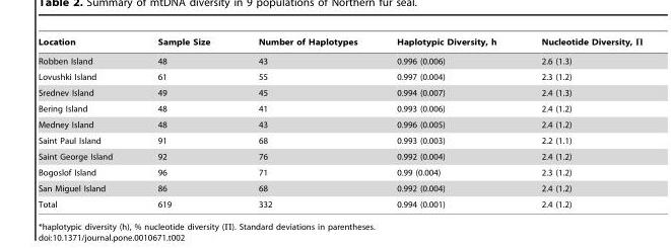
<table><thead><tr><td>Location</td><td>Sample Size</td><td>Number of Haplotypes</td><td>Haplotypic Diversity, h</td><td>Nucleotide Diversity,</td></tr></thead><tbody><tr><td>Robben Island</td><td>48</td><td>43</td><td>0.996 (0.006)</td><td>2.6 (1.3)</td></tr><tr><td>Lovushki Island</td><td>61</td><td>55</td><td>0.997 (0.004)</td><td>2.3 (1.2)</td></tr><tr><td>Srednev Island</td><td>49</td><td>45</td><td>0.994 (0.007)</td><td>2.4 (1.3)</td></tr><tr><td>Bering Island</td><td>48</td><td>41</td><td>0.993 (0.006)</td><td>2.4 (1.2)</td></tr><tr><td>Medney Island</td><td>48</td><td>43</td><td>0.996 (0.005)</td><td>2.4 (1.2)</td></tr><tr><td>Saint Paul Island</td><td>91</td><td>68</td><td>0.993 (0.003)</td><td>2.2 (1.1)</td></tr><tr><td>Saint George Island</td><td>92</td><td>76</td><td>0.992 (0.004)</td><td>2.4 (1.2)</td></tr><tr><td>Bogoslof Island</td><td>96</td><td>71</td><td>0.99 (0.004)</td><td>2.3 (1.2)</td></tr><tr><td>San Miguel Island</td><td>86</td><td>68</td><td>0.992 (0.004)</td><td>2.4 (1.2)</td></tr><tr><td>Total</td><td>619</td><td>332</td><td>0.994 (0.001)</td><td>2.4 (1.2)</td></tr></tbody></table>